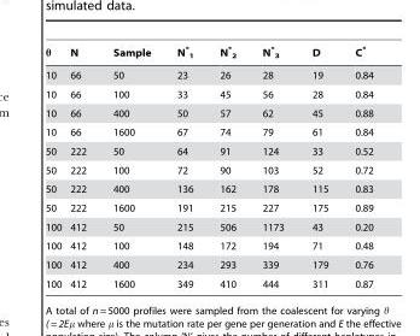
<table><thead><tr><td>θ</td><td>N</td><td>Sample</td><td>N* <sub>1</sub></td><td>N* <sub>2</sub></td><td>N* <sub>3</sub></td><td>D</td><td>C*</td></tr></thead><tbody><tr><td>10</td><td>66</td><td>50</td><td>23</td><td>26</td><td>28</td><td>19</td><td>0.84</td></tr><tr><td>10</td><td>66</td><td>100</td><td>33</td><td>45</td><td>56</td><td>28</td><td>0.84</td></tr><tr><td>10</td><td>66</td><td>400</td><td>50</td><td>57</td><td>62</td><td>45</td><td>0.88</td></tr><tr><td>10</td><td>66</td><td>1600</td><td>67</td><td>74</td><td>79</td><td>61</td><td>0.84</td></tr><tr><td>50</td><td>222</td><td>50</td><td>64</td><td>91</td><td>124</td><td>33</td><td>0.52</td></tr><tr><td>50</td><td>222</td><td>100</td><td>72</td><td>90</td><td>103</td><td>52</td><td>0.72</td></tr><tr><td>50</td><td>222</td><td>400</td><td>136</td><td>162</td><td>178</td><td>115</td><td>0.83</td></tr><tr><td>50</td><td>222</td><td>1600</td><td>191</td><td>215</td><td>227</td><td>175</td><td>0.89</td></tr><tr><td>100</td><td>412</td><td>50</td><td>215</td><td>506</td><td>1173</td><td>43</td><td>0.20</td></tr><tr><td>100</td><td>412</td><td>100</td><td>148</td><td>172</td><td>194</td><td>71</td><td>0.48</td></tr><tr><td>100</td><td>412</td><td>400</td><td>234</td><td>293</td><td>339</td><td>179</td><td>0.76</td></tr><tr><td>100</td><td>412</td><td>1600</td><td>349</td><td>410</td><td>444</td><td>311</td><td>0.87</td></tr></tbody></table>